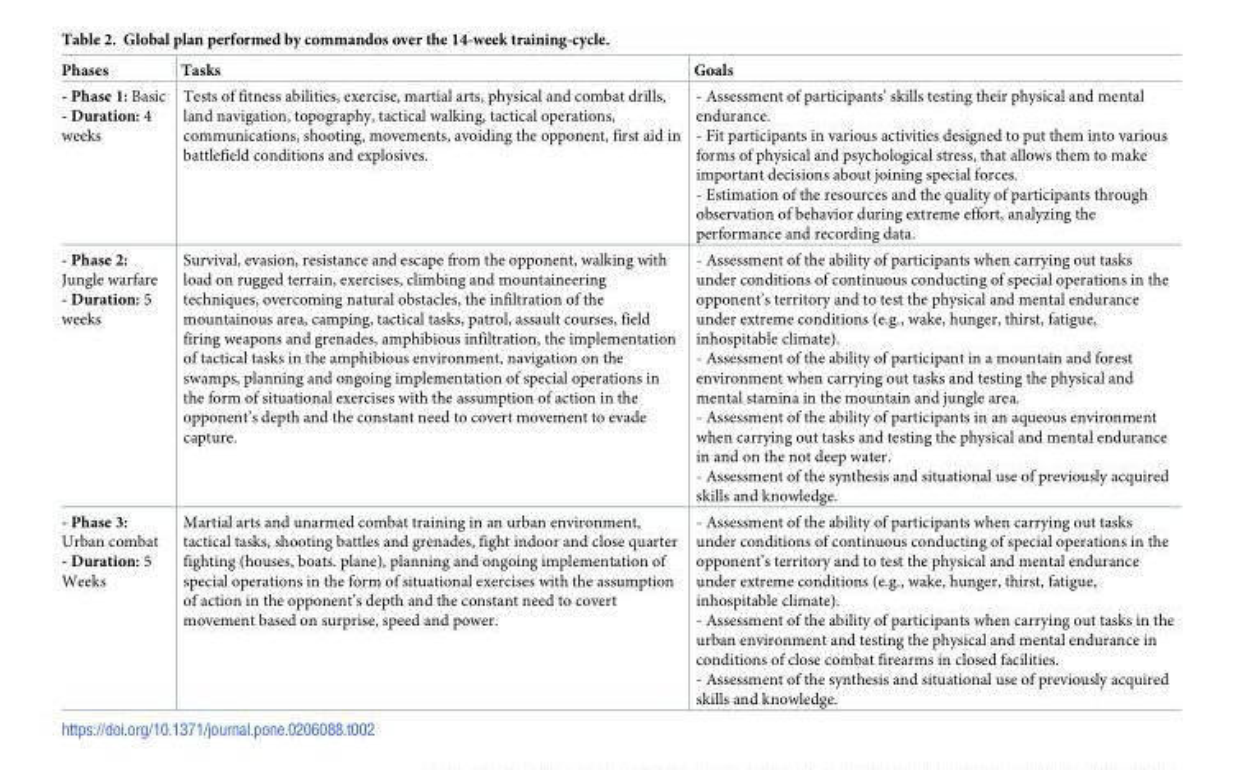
<table><thead><tr><td>Phases</td><td>Tasks</td><td>Goals</td></tr></thead><tbody><tr><td>- Phase 1: Basic - Duration: 4 weeks</td><td>Tests of fitness abilities, exercise, martial arts, physical and combat drills, land navigation, topography, tactical walking, tactical operations, communications, shooting, movements, avoiding the opponent, first aid in battlefield conditions and explosives.</td><td>- Assessment of participants’ skills testing their physical and mental endurance. - Fit participants in various activities designed to put them into various forms of physical and psychological stress, that allows them to make important decisions about joining special forces. - Estimation of the resources and the quality of participants through observation of behavior during extreme effort, analyzing the performance and recording data.</td></tr><tr><td>- Phase 2: Jungle warfare - Duration: 5 weeks</td><td>Survival, evasion, resistance and escape from the opponent, walking with load on rugged terrain, exercises, climbing and mountaineering techniques, overcoming natural obstacles, the infiltration of the mountainous area, camping, tactical tasks, patrol, assault courses, field firing weapons and grenades, amphibious infiltration, the implementation of tactical tasks in the amphibious environment, navigation on the swamps, planning and ongoing implementation of special operations in the form of situational exercises with the assumption of action in the opponent’s depth and the constant need to covert movement to evade capture.</td><td>- Assessment of the ability of participants when carrying out tasks under conditions of continuous conducting of special operations in the opponent’s territory and to test the physical and mental endurance under extreme conditions (e.g., wake, hunger, thirst, fatigue, inhospitable climate). - Assessment of the ability of participant in a mountain and forest environment when carrying out tasks and testing the physical and mental stamina in the mountain and jungle area. - Assessment of the ability of participants in an aqueous environment when carrying out tasks and testing the physical and mental endurance in and on the not deep water. - Assessment of the synthesis and situational use of previously acquired skills and knowledge.</td></tr><tr><td>- Phase 3: Urban combat - Duration: 5 Weeks</td><td>Martial arts and unarmed combat training in an urban environment, tactical tasks, shooting battles and grenades, fight indoor and close quarter fighting (houses, boats. plane), planning and ongoing implementation of special operations in the form of situational exercises with the assumption of action in the opponent’s depth and the constant need to covert movement based on surprise, speed and power.</td><td>- Assessment of the ability of participants when carrying out tasks under conditions of continuous conducting of special operations in the opponent’s territory and to test the physical and mental endurance under extreme conditions (e.g., wake, hunger, thirst, fatigue, inhospitable climate). - Assessment of the ability of participants when carrying out tasks in the urban environment and testing the physical and mental endurance in conditions of close combat firearms in closed facilities. - Assessment of the synthesis and situational use of previously acquired skills and knowledge.</td></tr></tbody></table>